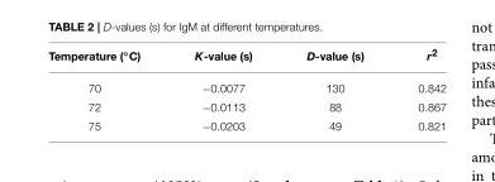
<table><thead><tr><td>Temperature (◦C)</td><td>K-value (s)</td><td>D-value (s)</td><td>r<sup>2</sup></td></tr></thead><tbody><tr><td>70</td><td>−0.0077</td><td>130</td><td>0.842</td></tr><tr><td>72</td><td>−0.0113</td><td>88</td><td>0.867</td></tr><tr><td>75</td><td>−0.0203</td><td>49</td><td>0.821</td></tr></tbody></table>